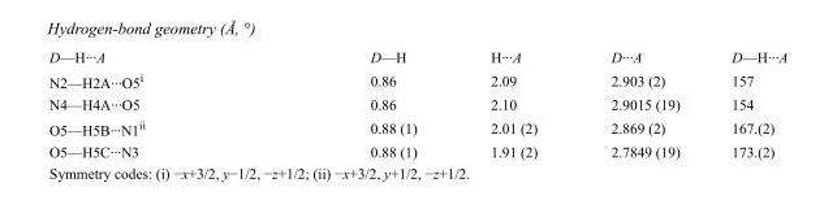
<table><tbody><tr><td>D—H···A</td><td>D—H</td><td>H···A</td><td>D···A</td><td>D—H···A</td></tr><tr><td>N2—H2A···O5<sup>i</sup></td><td>0.86</td><td>2.09</td><td>2.903 (2)</td><td>157</td></tr><tr><td>N4—H4A···O5</td><td>0.86</td><td>2.10</td><td>2.9015 (19)</td><td>154</td></tr><tr><td>O5—H5B···N1<sup>ii</sup></td><td>0.88 (1)</td><td>2.01 (2)</td><td>2.869 (2)</td><td>167.(2)</td></tr><tr><td>O5—H5C···N3</td><td>0.88 (1)</td><td>1.91 (2)</td><td>2.7849 (19)</td><td>173.(2)</td></tr></tbody></table>